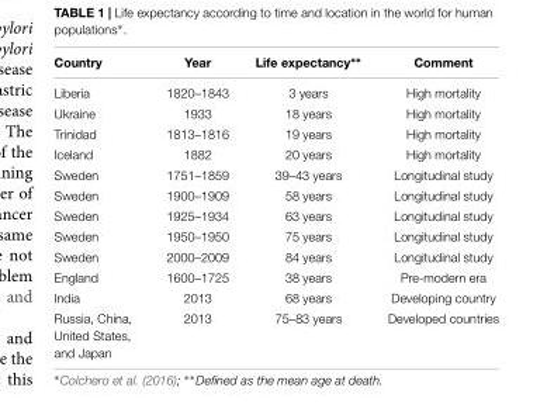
<table><thead><tr><td>Country</td><td>Year</td><td>Life expectancy∗∗</td><td>Comment</td></tr></thead><tbody><tr><td>Liberia</td><td>1820–1843</td><td>3 years</td><td>High mortality</td></tr><tr><td>Ukraine</td><td>1933</td><td>18 years</td><td>High mortality</td></tr><tr><td>Trinidad</td><td>1813–1816</td><td>19 years</td><td>High mortality</td></tr><tr><td>Iceland</td><td>1882</td><td>20 years</td><td>High mortality</td></tr><tr><td>Sweden</td><td>1751–1859</td><td>39–43 years</td><td>Longitudinal study</td></tr><tr><td>Sweden</td><td>1900–1909</td><td>58 years</td><td>Longitudinal study</td></tr><tr><td>Sweden</td><td>1925–1934</td><td>63 years</td><td>Longitudinal study</td></tr><tr><td>Sweden</td><td>1950–1950</td><td>75 years</td><td>Longitudinal study</td></tr><tr><td>Sweden</td><td>2000–2009</td><td>84 years</td><td>Longitudinal study</td></tr><tr><td>England</td><td>1600–1725</td><td>38 years</td><td>Pre-modern era</td></tr><tr><td>India</td><td>2013</td><td>68 years</td><td>Developing country</td></tr><tr><td>Russia, China, United States, and Japan</td><td>2013</td><td>75–83 years</td><td>Developed countries</td></tr></tbody></table>